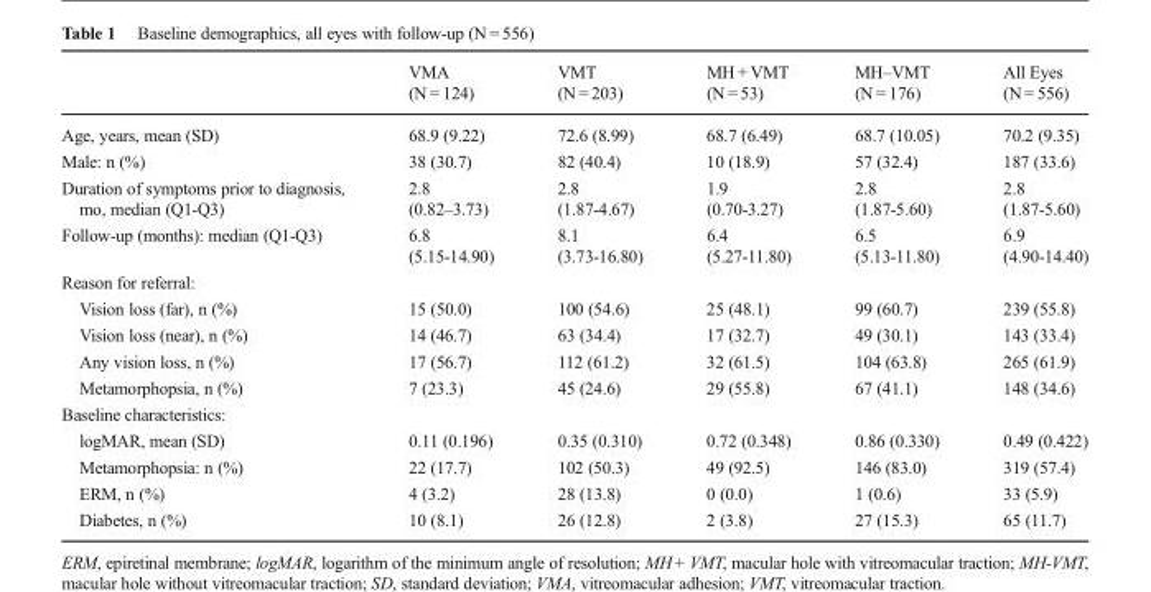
<table><thead><tr><td></td><td>VMA (N = 124)</td><td>VMT (N = 203)</td><td>MH + VMT (N = 53)</td><td>MH–VMT (N = 176)</td><td>All Eyes (N = 556)</td></tr></thead><tbody><tr><td>Age, years, mean (SD)</td><td>68.9 (9.22)</td><td>72.6 (8.99)</td><td>68.7 (6.49)</td><td>68.7 (10.05)</td><td>70.2 (9.35)</td></tr><tr><td>Male: n (%)</td><td>38 (30.7)</td><td>82 (40.4)</td><td>10 (18.9)</td><td>57 (32.4)</td><td>187 (33.6)</td></tr><tr><td>Duration of symptoms prior to diagnosis, mo, median (Q1-Q3)</td><td>2.8 (0.82–3.73)</td><td>2.8 (1.87-4.67)</td><td>1.9 (0.70-3.27)</td><td>2.8 (1.87-5.60)</td><td>2.8 (1.87-5.60)</td></tr><tr><td>Follow-up (months): median (Q1-Q3)</td><td>6.8 (5.15-14.90)</td><td>8.1 (3.73-16.80)</td><td>6.4 (5.27-11.80)</td><td>6.5 (5.13-11.80)</td><td>6.9 (4.90-14.40)</td></tr><tr><td colspan="6">Reason for referral:</td></tr><tr><td>Vision loss (far), n (%)</td><td>15 (50.0)</td><td>100 (54.6)</td><td>25 (48.1)</td><td>99 (60.7)</td><td>239 (55.8)</td></tr><tr><td>Vision loss (near), n (%)</td><td>14 (46.7)</td><td>63 (34.4)</td><td>17 (32.7)</td><td>49 (30.1)</td><td>143 (33.4)</td></tr><tr><td>Any vision loss, n (%)</td><td>17 (56.7)</td><td>112 (61.2)</td><td>32 (61.5)</td><td>104 (63.8)</td><td>265 (61.9)</td></tr><tr><td>Metamorphopsia, n (%)</td><td>7 (23.3)</td><td>45 (24.6)</td><td>29 (55.8)</td><td>67 (41.1)</td><td>148 (34.6)</td></tr><tr><td colspan="6">Baseline characteristics:</td></tr><tr><td>logMAR, mean (SD)</td><td>0.11 (0.196)</td><td>0.35 (0.310)</td><td>0.72 (0.348)</td><td>0.86 (0.330)</td><td>0.49 (0.422)</td></tr><tr><td>Metamorphopsia: n (%)</td><td>22 (17.7)</td><td>102 (50.3)</td><td>49 (92.5)</td><td>146 (83.0)</td><td>319 (57.4)</td></tr><tr><td>ERM, n (%)</td><td>4 (3.2)</td><td>28 (13.8)</td><td>0 (0.0)</td><td>1 (0.6)</td><td>33 (5.9)</td></tr><tr><td>Diabetes, n (%)</td><td>10 (8.1)</td><td>26 (12.8)</td><td>2 (3.8)</td><td>27 (15.3)</td><td>65 (11.7)</td></tr></tbody></table>